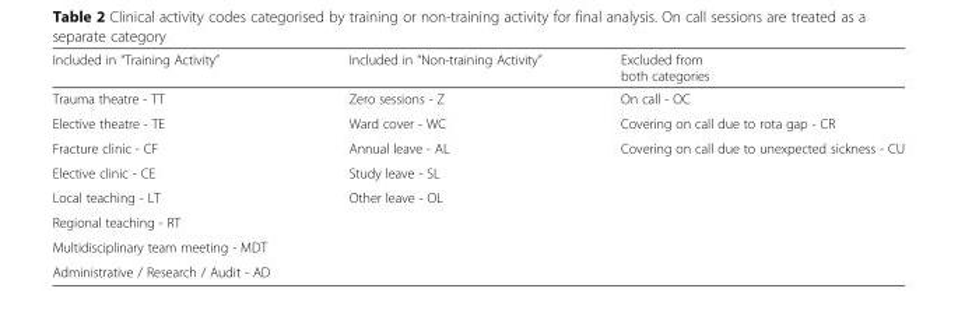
<table><thead><tr><td>Included in “Training Activity”</td><td>Included in “Non-training Activity”</td><td>Excluded from both categories</td></tr></thead><tbody><tr><td>Trauma theatre - TT</td><td>Zero sessions - Z</td><td>On call - OC</td></tr><tr><td>Elective theatre - TE</td><td>Ward cover - WC</td><td>Covering on call due to rota gap - CR</td></tr><tr><td>Fracture clinic - CF</td><td>Annual leave - AL</td><td>Covering on call due to unexpected sickness - CU</td></tr><tr><td>Elective clinic - CE</td><td>Study leave - SL</td><td></td></tr><tr><td>Local teaching - LT</td><td>Other leave - OL</td><td></td></tr><tr><td colspan="3">Regional teaching - RT</td></tr><tr><td colspan="3">Multidisciplinary team meeting - MDT</td></tr><tr><td>Administrative / Research / Audit - AD</td><td></td><td></td></tr></tbody></table>